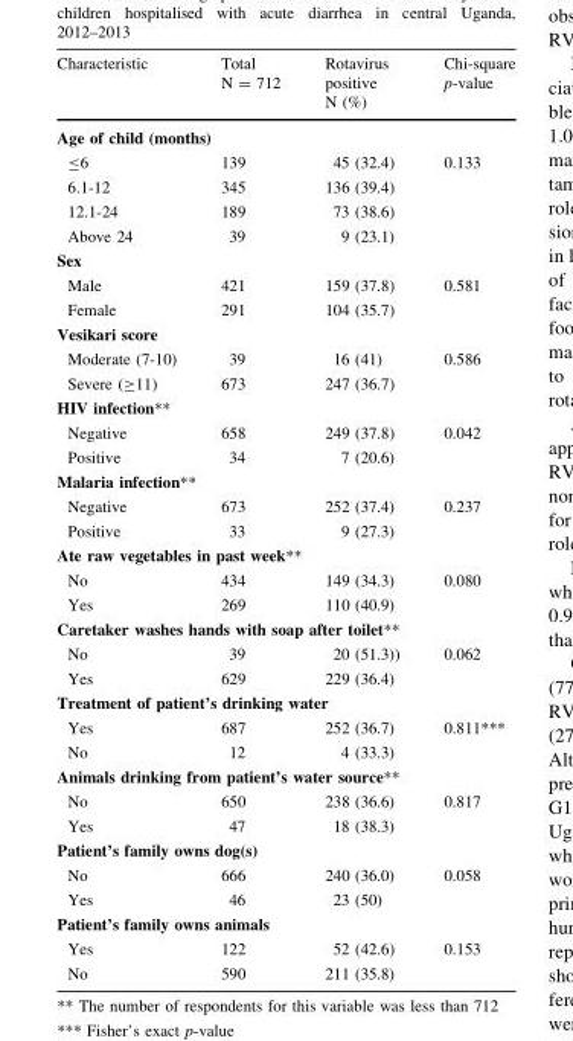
<table><thead><tr><td>Characteristic</td><td>Total N = 712</td><td>Rotavirus positive N (%)</td><td>Chi-square p-value</td></tr></thead><tbody><tr><td colspan="4">Age of child (months)</td></tr><tr><td>≤6</td><td>139</td><td>45 (32.4)</td><td rowspan="4">0.133</td></tr><tr><td>6.1-12</td><td>345</td><td>136 (39.4)</td></tr><tr><td>12.1-24</td><td>189</td><td>73 (38.6)</td></tr><tr><td>Above 24</td><td>39</td><td>9 (23.1)</td></tr><tr><td colspan="4">Sex</td></tr><tr><td>Male</td><td>421</td><td>159 (37.8)</td><td rowspan="2">0.581</td></tr><tr><td>Female</td><td>291</td><td>104 (35.7)</td></tr><tr><td colspan="4">Vesikari score</td></tr><tr><td>Moderate (7-10)</td><td>39</td><td>16 (41)</td><td rowspan="2">0.586</td></tr><tr><td>Severe (≥11)</td><td>673</td><td>247 (36.7)</td></tr><tr><td colspan="4">HIV infection**</td></tr><tr><td>Negative</td><td>658</td><td>249 (37.8)</td><td>0.042</td></tr><tr><td>Positive</td><td>34</td><td>7 (20.6)</td><td></td></tr><tr><td colspan="4">Malaria infection**</td></tr><tr><td>Negative</td><td>673</td><td>252 (37.4)</td><td>0.237</td></tr><tr><td>Positive</td><td>33</td><td>9 (27.3)</td><td></td></tr><tr><td colspan="4">Ate raw vegetables in past week**</td></tr><tr><td>No</td><td>434</td><td>149 (34.3)</td><td rowspan="2">0.080</td></tr><tr><td>Yes</td><td>269</td><td>110 (40.9)</td></tr><tr><td colspan="4">Caretaker washes hands with soap after toilet**</td></tr><tr><td>No</td><td>39</td><td>20 (51.3))</td><td rowspan="2">0.062</td></tr><tr><td>Yes</td><td>629</td><td>229 (36.4)</td></tr><tr><td colspan="4">Treatment of patient’s drinking water</td></tr><tr><td>Yes</td><td>687</td><td>252 (36.7)</td><td rowspan="2">0.811***</td></tr><tr><td>No</td><td>12</td><td>4 (33.3)</td></tr><tr><td colspan="4">Animals drinking from patient’s water source**</td></tr><tr><td>No</td><td>650</td><td>238 (36.6)</td><td rowspan="2">0.817</td></tr><tr><td>Yes</td><td>47</td><td>18 (38.3)</td></tr><tr><td colspan="4">Patient’s family owns dog(s)</td></tr><tr><td>No</td><td>666</td><td>240 (36.0)</td><td rowspan="2">0.058</td></tr><tr><td>Yes</td><td>46</td><td>23 (50)</td></tr><tr><td colspan="4">Patient’s family owns animals</td></tr><tr><td>Yes</td><td>122</td><td>52 (42.6)</td><td rowspan="2">0.153</td></tr><tr><td>No</td><td>590</td><td>211 (35.8)</td></tr></tbody></table>